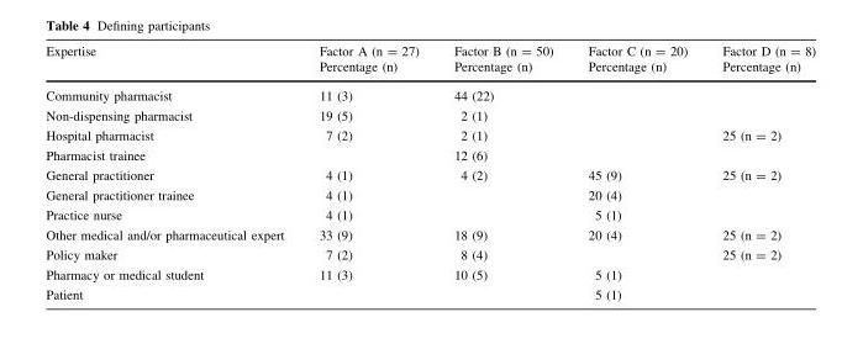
<table><thead><tr><td rowspan="2">Expertise</td><td rowspan="2">Factor A (n = 27) Percentage (n)</td><td rowspan="2">Factor B (n = 50) Percentage (n)</td><td rowspan="2">Factor C (n = 20) Percentage (n)</td><td rowspan="2">Factor D (n = 8) Percentage (n)</td></tr><tr></tr></thead><tbody><tr><td>Community pharmacist</td><td>11 (3)</td><td>44 (22)</td><td></td><td></td></tr><tr><td>Non-dispensing pharmacist</td><td>19 (5)</td><td>2 (1)</td><td></td><td></td></tr><tr><td>Hospital pharmacist</td><td>7 (2)</td><td>2 (1)</td><td></td><td>25 (n = 2)</td></tr><tr><td>Pharmacist trainee</td><td></td><td>12 (6)</td><td></td><td></td></tr><tr><td>General practitioner</td><td>4 (1)</td><td>4 (2)</td><td>45 (9)</td><td>25 (n = 2)</td></tr><tr><td>General practitioner trainee</td><td>4 (1)</td><td></td><td>20 (4)</td><td></td></tr><tr><td>Practice nurse</td><td>4 (1)</td><td></td><td>5 (1)</td><td></td></tr><tr><td>Other medical and/or pharmaceutical expert</td><td>33 (9)</td><td>18 (9)</td><td>20 (4)</td><td>25 (n = 2)</td></tr><tr><td>Policy maker</td><td>7 (2)</td><td>8 (4)</td><td></td><td>25 (n = 2)</td></tr><tr><td>Pharmacy or medical student</td><td>11 (3)</td><td>10 (5)</td><td>5 (1)</td><td></td></tr><tr><td>Patient</td><td></td><td></td><td>5 (1)</td><td></td></tr></tbody></table>